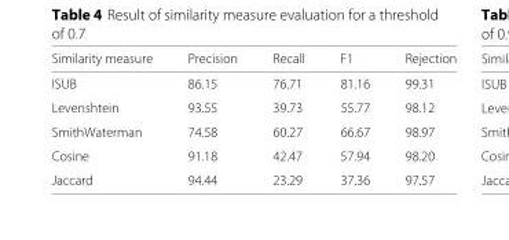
<table><thead><tr><td>Similarity measure</td><td>Precision</td><td>Recall</td><td>F1</td><td>Rejection</td></tr></thead><tbody><tr><td>ISUB</td><td>86.15</td><td>76.71</td><td>81.16</td><td>99.31</td></tr><tr><td>Levenshtein</td><td>93.55</td><td>39.73</td><td>55.77</td><td>98.12</td></tr><tr><td>SmithWaterman</td><td>74.58</td><td>60.27</td><td>66.67</td><td>98.97</td></tr><tr><td>Cosine</td><td>91.18</td><td>42.47</td><td>57.94</td><td>98.20</td></tr><tr><td>Jaccard</td><td>94.44</td><td>23.29</td><td>37.36</td><td>97.57</td></tr></tbody></table>